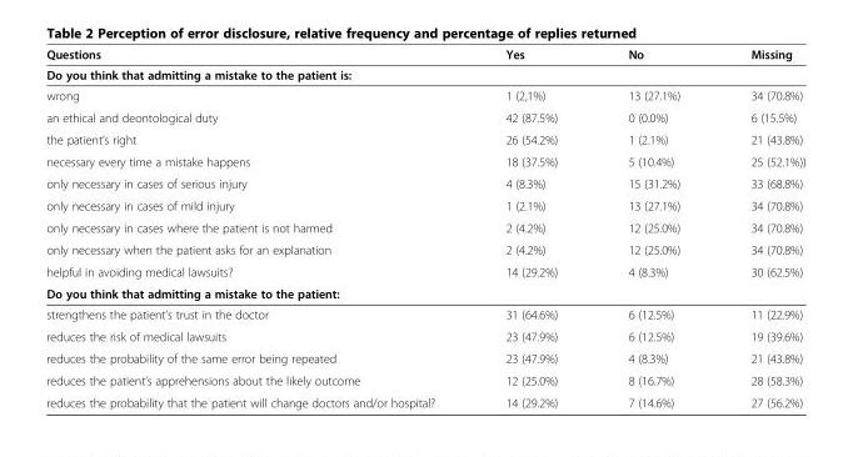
<table><thead><tr><td>Questions</td><td>Yes</td><td>No</td><td>Missing</td></tr></thead><tbody><tr><td colspan="4">Do you think that admitting a mistake to the patient is:</td></tr><tr><td>wrong</td><td>1 (2,1%)</td><td>13 (27.1%)</td><td>34 (70.8%)</td></tr><tr><td>an ethical and deontological duty</td><td>42 (87.5%)</td><td>0 (0.0%)</td><td>6 (15.5%)</td></tr><tr><td>the patient’s right</td><td>26 (54.2%)</td><td>1 (2.1%)</td><td>21 (43.8%)</td></tr><tr><td>necessary every time a mistake happens</td><td>18 (37.5%)</td><td>5 (10.4%)</td><td>25 (52.1%))</td></tr><tr><td>only necessary in cases of serious injury</td><td>4 (8.3%)</td><td>15 (31.2%)</td><td>33 (68.8%)</td></tr><tr><td>only necessary in cases of mild injury</td><td>1 (2.1%)</td><td>13 (27.1%)</td><td>34 (70.8%)</td></tr><tr><td>only necessary in cases where the patient is not harmed</td><td>2 (4.2%)</td><td>12 (25.0%)</td><td>34 (70.8%)</td></tr><tr><td>only necessary when the patient asks for an explanation</td><td>2 (4.2%)</td><td>12 (25.0%)</td><td>34 (70.8%)</td></tr><tr><td>helpful in avoiding medical lawsuits?</td><td>14 (29.2%)</td><td>4 (8.3%)</td><td>30 (62.5%)</td></tr><tr><td colspan="4">Do you think that admitting a mistake to the patient:</td></tr><tr><td>strengthens the patient’s trust in the doctor</td><td>31 (64.6%)</td><td>6 (12.5%)</td><td>11 (22.9%)</td></tr><tr><td>reduces the risk of medical lawsuits</td><td>23 (47.9%)</td><td>6 (12.5%)</td><td>19 (39.6%)</td></tr><tr><td>reduces the probability of the same error being repeated</td><td>23 (47.9%)</td><td>4 (8.3%)</td><td>21 (43.8%)</td></tr><tr><td>reduces the patient’s apprehensions about the likely outcome</td><td>12 (25.0%)</td><td>8 (16.7%)</td><td>28 (58.3%)</td></tr><tr><td>reduces the probability that the patient will change doctors and/or hospital?</td><td>14 (29.2%)</td><td>7 (14.6%)</td><td>27 (56.2%)</td></tr></tbody></table>